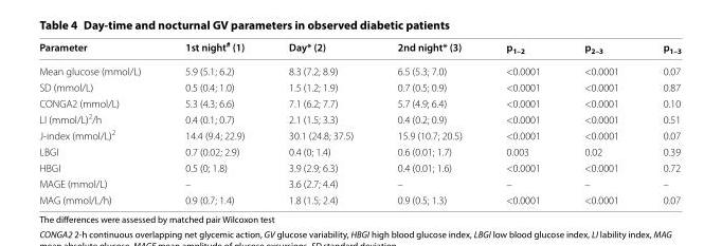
<table><thead><tr><td>Parameter</td><td>1st night<sup>#</sup> (1)</td><td>Day* (2)</td><td>2nd night* (3)</td><td>p<sub>1–2</sub></td><td>p<sub>2–3</sub></td><td>p<sub>1–3</sub></td></tr></thead><tbody><tr><td>Mean glucose (mmol/L)</td><td>5.9 (5.1; 6.2)</td><td>8.3 (7.2; 8.9)</td><td>6.5 (5.3; 7.0)</td><td>&lt;0.0001</td><td>&lt;0.0001</td><td>0.07</td></tr><tr><td>SD (mmol/L)</td><td>0.5 (0.4; 1.0)</td><td>1.5 (1.2; 1.9)</td><td>0.7 (0.5; 0.9)</td><td>&lt;0.0001</td><td>&lt;0.0001</td><td>0.87</td></tr><tr><td>CONGA2 (mmol/L)</td><td>5.3 (4.3; 6.6)</td><td>7.1 (6.2; 7.7)</td><td>5.7 (4.9; 6.4)</td><td>&lt;0.0001</td><td>&lt;0.0001</td><td>0.10</td></tr><tr><td>LI (mmol/L)<sup>2</sup>/h</td><td>0.4 (0.1; 0.7)</td><td>2.1 (1.5; 3.3)</td><td>0.4 (0.2; 0.9)</td><td>&lt;0.0001</td><td>&lt;0.0001</td><td>0.51</td></tr><tr><td>J-index (mmol/L)<sup>2</sup></td><td>14.4 (9.4; 22.9)</td><td>30.1 (24.8; 37.5)</td><td>15.9 (10.7; 20.5)</td><td>&lt;0.0001</td><td>&lt;0.0001</td><td>0.07</td></tr><tr><td>LBGI</td><td>0.7 (0.02; 2.9)</td><td>0.4 (0; 1.4)</td><td>0.6 (0.01; 1.7)</td><td>0.003</td><td>0.02</td><td>0.39</td></tr><tr><td>HBGI</td><td>0.5 (0; 1.8)</td><td>3.9 (2.9; 6.3)</td><td>0.4 (0.01; 1.6)</td><td>&lt;0.0001</td><td>&lt;0.0001</td><td>0.72</td></tr><tr><td>MAGE (mmol/L)</td><td>–</td><td>3.6 (2.7; 4.4)</td><td>–</td><td>–</td><td>–</td><td>–</td></tr><tr><td>MAG (mmol/L/h)</td><td>0.9 (0.7; 1.4)</td><td>1.8 (1.5; 2.4)</td><td>0.9 (0.5; 1.3)</td><td>&lt;0.0001</td><td>&lt;0.0001</td><td>0.07</td></tr></tbody></table>